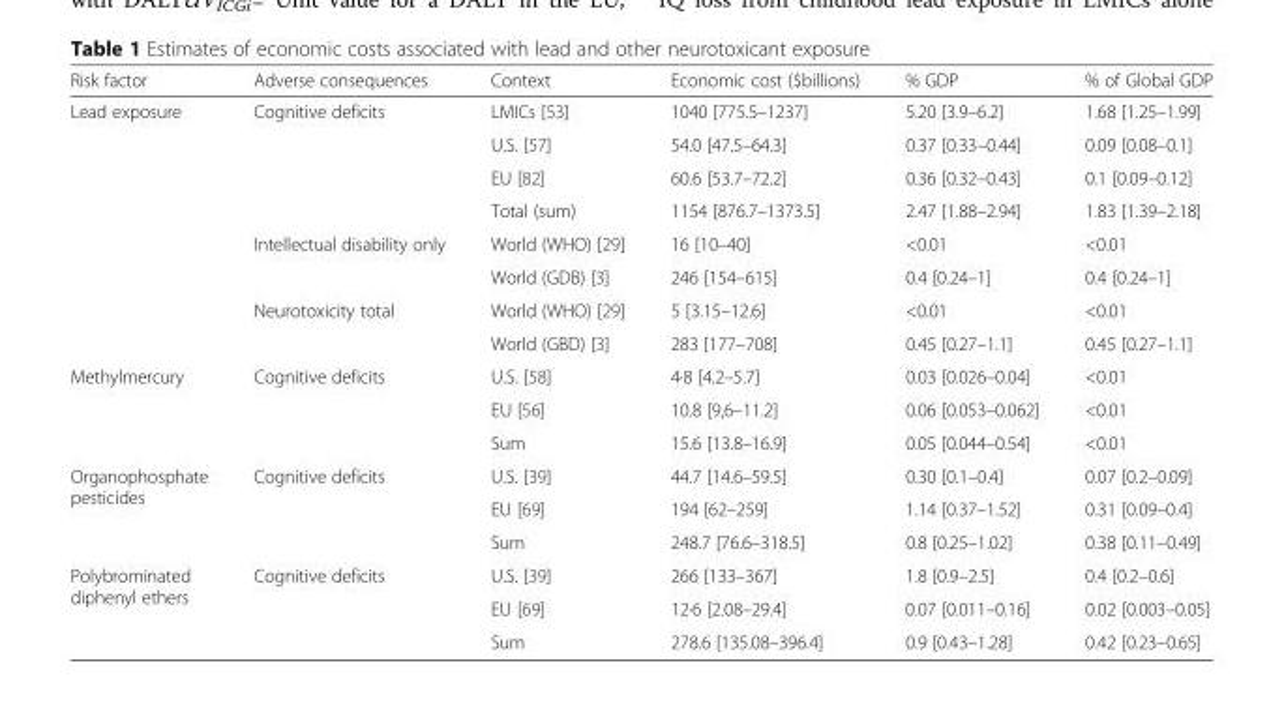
<table><thead><tr><td>Risk factor</td><td>Adverse consequences</td><td>Context</td><td>Economic cost ($billions)</td><td>% GDP</td><td>% of Global GDP</td></tr></thead><tbody><tr><td rowspan="8">Lead exposure</td><td rowspan="4">Cognitive deficits</td><td>LMICs [53]</td><td>1040 [775.5–1237]</td><td>5.20 [3.9–6.2]</td><td>1.68 [1.25–1.99]</td></tr><tr><td>U.S. [57]</td><td>54.0 [47.5–64.3]</td><td>0.37 [0.33–0.44]</td><td>0.09 [0.08–0.1]</td></tr><tr><td>EU [82]</td><td>60.6 [53.7–72.2]</td><td>0.36 [0.32–0.43]</td><td>0.1 [0.09–0.12]</td></tr><tr><td>Total (sum)</td><td>1154 [876.7–1373.5]</td><td>2.47 [1.88–2.94]</td><td>1.83 [1.39–2.18]</td></tr><tr><td rowspan="2">Intellectual disability only</td><td>World (WHO) [29]</td><td>16 [10–40]</td><td>&lt;0.01</td><td>&lt;0.01</td></tr><tr><td>World (GDB) [3]</td><td>246 [154–615]</td><td>0.4 [0.24–1]</td><td>0.4 [0.24–1]</td></tr><tr><td rowspan="2">Neurotoxicity total</td><td>World (WHO) [29]</td><td>5 [3.15–12.6]</td><td>&lt;0.01</td><td>&lt;0.01</td></tr><tr><td>World (GBD) [3]</td><td>283 [177–708]</td><td>0.45 [0.27–1.1]</td><td>0.45 [0.27–1.1]</td></tr><tr><td rowspan="3">Methylmercury</td><td rowspan="3">Cognitive deficits</td><td>U.S. [58]</td><td>4·8 [4.2–5.7]</td><td>0.03 [0.026–0.04]</td><td>&lt;0.01</td></tr><tr><td>EU [56]</td><td>10.8 [9,6–11.2]</td><td>0.06 [0.053–0.062]</td><td>&lt;0.01</td></tr><tr><td>Sum</td><td>15.6 [13.8–16.9]</td><td>0.05 [0.044–0.54]</td><td>&lt;0.01</td></tr><tr><td rowspan="3">Organophosphate pesticides</td><td rowspan="3">Cognitive deficits</td><td>U.S. [39]</td><td>44.7 [14.6–59.5]</td><td>0.30 [0.1–0.4]</td><td>0.07 [0.2–0.09]</td></tr><tr><td>EU [69]</td><td>194 [62–259]</td><td>1.14 [0.37–1.52]</td><td>0.31 [0.09–0.4]</td></tr><tr><td>Sum</td><td>248.7 [76.6–318.5]</td><td>0.8 [0.25–1.02]</td><td>0.38 [0.11–0.49]</td></tr><tr><td rowspan="3">Polybrominated diphenyl ethers</td><td rowspan="3">Cognitive deficits</td><td>U.S. [39]</td><td>266 [133–367]</td><td>1.8 [0.9–2.5]</td><td>0.4 [0.2–0.6]</td></tr><tr><td>EU [69]</td><td>12·6 [2.08–29.4]</td><td>0.07 [0.011–0.16]</td><td>0.02 [0.003–0.05]</td></tr><tr><td>Sum</td><td>278.6 [135.08–396.4]</td><td>0.9 [0.43–1.28]</td><td>0.42 [0.23–0.65]</td></tr></tbody></table>